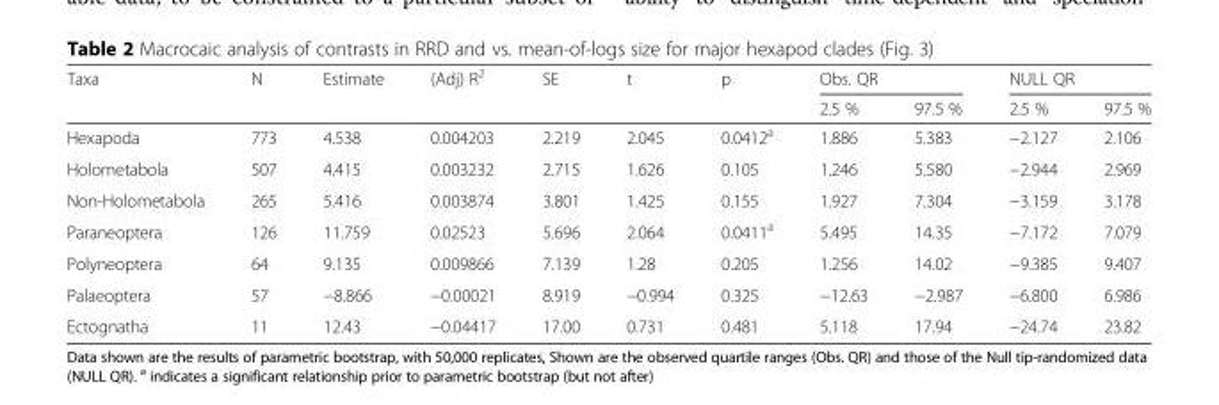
<table><thead><tr><td rowspan="2">Taxa</td><td rowspan="2">N</td><td rowspan="2">Estimate</td><td rowspan="2">(Adj) R<sup>2</sup></td><td rowspan="2">SE</td><td rowspan="2">t</td><td rowspan="2">p</td><td colspan="2">Obs. QR</td><td colspan="2">NULL QR</td></tr><tr><td>2.5 %</td><td>97.5 %</td><td>2.5 %</td><td>97.5 %</td></tr></thead><tbody><tr><td>Hexapoda</td><td>773</td><td>4.538</td><td>0.004203</td><td>2.219</td><td>2.045</td><td>0.0412<sup>a</sup></td><td>1.886</td><td>5.383</td><td>−2.127</td><td>2.106</td></tr><tr><td>Holometabola</td><td>507</td><td>4.415</td><td>0.003232</td><td>2.715</td><td>1.626</td><td>0.105</td><td>1.246</td><td>5.580</td><td>−2.944</td><td>2.969</td></tr><tr><td>Non-Holometabola</td><td>265</td><td>5.416</td><td>0.003874</td><td>3.801</td><td>1.425</td><td>0.155</td><td>1.927</td><td>7.304</td><td>−3.159</td><td>3.178</td></tr><tr><td>Paraneoptera</td><td>126</td><td>11.759</td><td>0.02523</td><td>5.696</td><td>2.064</td><td>0.0411<sup>a</sup></td><td>5.495</td><td>14.35</td><td>−7.172</td><td>7.079</td></tr><tr><td>Polyneoptera</td><td>64</td><td>9.135</td><td>0.009866</td><td>7.139</td><td>1.28</td><td>0.205</td><td>1.256</td><td>14.02</td><td>−9.385</td><td>9.407</td></tr><tr><td>Palaeoptera</td><td>57</td><td>−8.866</td><td>−0.00021</td><td>8.919</td><td>−0.994</td><td>0.325</td><td>−12.63</td><td>−2.987</td><td>−6.800</td><td>6.986</td></tr><tr><td>Ectognatha</td><td>11</td><td>12.43</td><td>−0.04417</td><td>17.00</td><td>0.731</td><td>0.481</td><td>5.118</td><td>17.94</td><td>−24.74</td><td>23.82</td></tr></tbody></table>